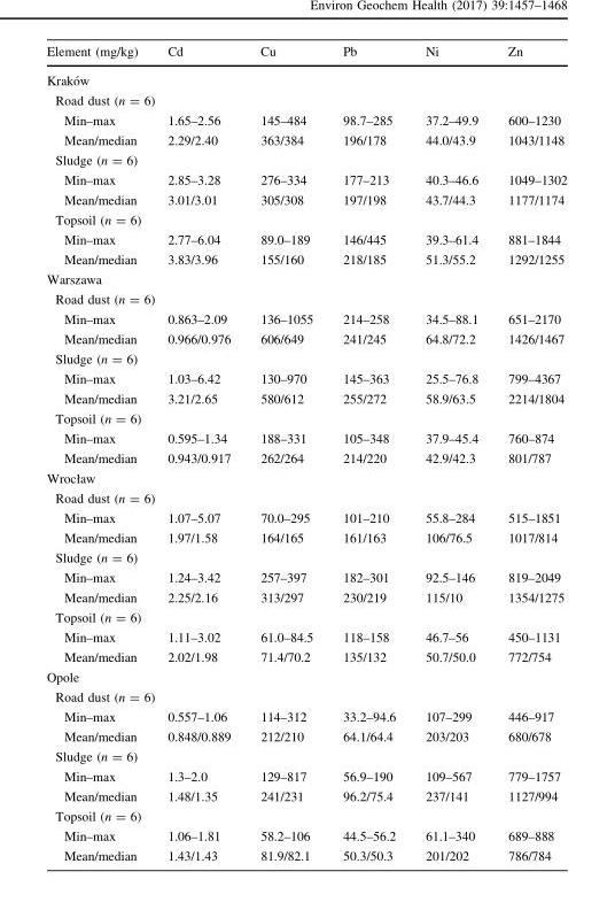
<table><thead><tr><td>Element (mg/kg)</td><td>Cd</td><td>Cu</td><td>Pb</td><td>Ni</td><td>Zn</td></tr></thead><tbody><tr><td colspan="6">Krako´w</td></tr><tr><td colspan="6">Road dust (n = 6)</td></tr><tr><td>Min–max</td><td>1.65–2.56</td><td>145–484</td><td>98.7–285</td><td>37.2–49.9</td><td>600–1230</td></tr><tr><td>Mean/median</td><td>2.29/2.40</td><td>363/384</td><td>196/178</td><td>44.0/43.9</td><td>1043/1148</td></tr><tr><td colspan="6">Sludge (n = 6)</td></tr><tr><td>Min–max</td><td>2.85–3.28</td><td>276–334</td><td>177–213</td><td>40.3–46.6</td><td>1049–1302</td></tr><tr><td>Mean/median</td><td>3.01/3.01</td><td>305/308</td><td>197/198</td><td>43.7/44.3</td><td>1177/1174</td></tr><tr><td colspan="6">Topsoil (n = 6)</td></tr><tr><td>Min–max</td><td>2.77–6.04</td><td>89.0–189</td><td>146/445</td><td>39.3–61.4</td><td>881–1844</td></tr><tr><td>Mean/median</td><td>3.83/3.96</td><td>155/160</td><td>218/185</td><td>51.3/55.2</td><td>1292/1255</td></tr><tr><td colspan="6">Warszawa</td></tr><tr><td colspan="6">Road dust (n = 6)</td></tr><tr><td>Min–max</td><td>0.863–2.09</td><td>136–1055</td><td>214–258</td><td>34.5–88.1</td><td>651–2170</td></tr><tr><td>Mean/median</td><td>0.966/0.976</td><td>606/649</td><td>241/245</td><td>64.8/72.2</td><td>1426/1467</td></tr><tr><td colspan="6">Sludge (n = 6)</td></tr><tr><td>Min–max</td><td>1.03–6.42</td><td>130–970</td><td>145–363</td><td>25.5–76.8</td><td>799–4367</td></tr><tr><td>Mean/median</td><td>3.21/2.65</td><td>580/612</td><td>255/272</td><td>58.9/63.5</td><td>2214/1804</td></tr><tr><td colspan="6">Topsoil (n = 6)</td></tr><tr><td>Min–max</td><td>0.595–1.34</td><td>188–331</td><td>105–348</td><td>37.9–45.4</td><td>760–874</td></tr><tr><td>Mean/median</td><td>0.943/0.917</td><td>262/264</td><td>214/220</td><td>42.9/42.3</td><td>801/787</td></tr><tr><td colspan="6">Wrocław</td></tr><tr><td colspan="6">Road dust (n = 6)</td></tr><tr><td>Min–max</td><td>1.07–5.07</td><td>70.0–295</td><td>101–210</td><td>55.8–284</td><td>515–1851</td></tr><tr><td>Mean/median</td><td>1.97/1.58</td><td>164/165</td><td>161/163</td><td>106/76.5</td><td>1017/814</td></tr><tr><td colspan="6">Sludge (n = 6)</td></tr><tr><td>Min–max</td><td>1.24–3.42</td><td>257–397</td><td>182–301</td><td>92.5–146</td><td>819–2049</td></tr><tr><td>Mean/median</td><td>2.25/2.16</td><td>313/297</td><td>230/219</td><td>115/10</td><td>1354/1275</td></tr><tr><td colspan="6">Topsoil (n = 6)</td></tr><tr><td>Min–max</td><td>1.11–3.02</td><td>61.0–84.5</td><td>118–158</td><td>46.7–56</td><td>450–1131</td></tr><tr><td>Mean/median</td><td>2.02/1.98</td><td>71.4/70.2</td><td>135/132</td><td>50.7/50.0</td><td>772/754</td></tr><tr><td colspan="6">Opole</td></tr><tr><td colspan="6">Road dust (n = 6)</td></tr><tr><td>Min–max</td><td>0.557–1.06</td><td>114–312</td><td>33.2–94.6</td><td>107–299</td><td>446–917</td></tr><tr><td>Mean/median</td><td>0.848/0.889</td><td>212/210</td><td>64.1/64.4</td><td>203/203</td><td>680/678</td></tr><tr><td colspan="6">Sludge (n = 6)</td></tr><tr><td>Min–max</td><td>1.3–2.0</td><td>129–817</td><td>56.9–190</td><td>109–567</td><td>779–1757</td></tr><tr><td>Mean/median</td><td>1.48/1.35</td><td>241/231</td><td>96.2/75.4</td><td>237/141</td><td>1127/994</td></tr><tr><td colspan="6">Topsoil (n = 6)</td></tr><tr><td>Min–max</td><td>1.06–1.81</td><td>58.2–106</td><td>44.5–56.2</td><td>61.1–340</td><td>689–888</td></tr><tr><td>Mean/median</td><td>1.43/1.43</td><td>81.9/82.1</td><td>50.3/50.3</td><td>201/202</td><td>786/784</td></tr></tbody></table>